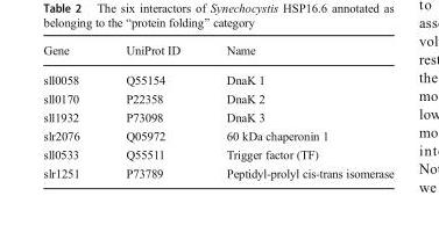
<table><thead><tr><td>Gene</td><td>UniProt ID</td><td>Name</td></tr></thead><tbody><tr><td>sll0058</td><td>Q55154</td><td>DnaK 1</td></tr><tr><td>sll0170</td><td>P22358</td><td>DnaK 2</td></tr><tr><td>sll1932</td><td>P73098</td><td>DnaK 3</td></tr><tr><td>slr2076</td><td>Q05972</td><td>60 kDa chaperonin 1</td></tr><tr><td>sll0533</td><td>Q55511</td><td>Trigger factor (TF)</td></tr><tr><td>slr1251</td><td>P73789</td><td>Peptidyl-prolyl cis-trans isomerase</td></tr></tbody></table>